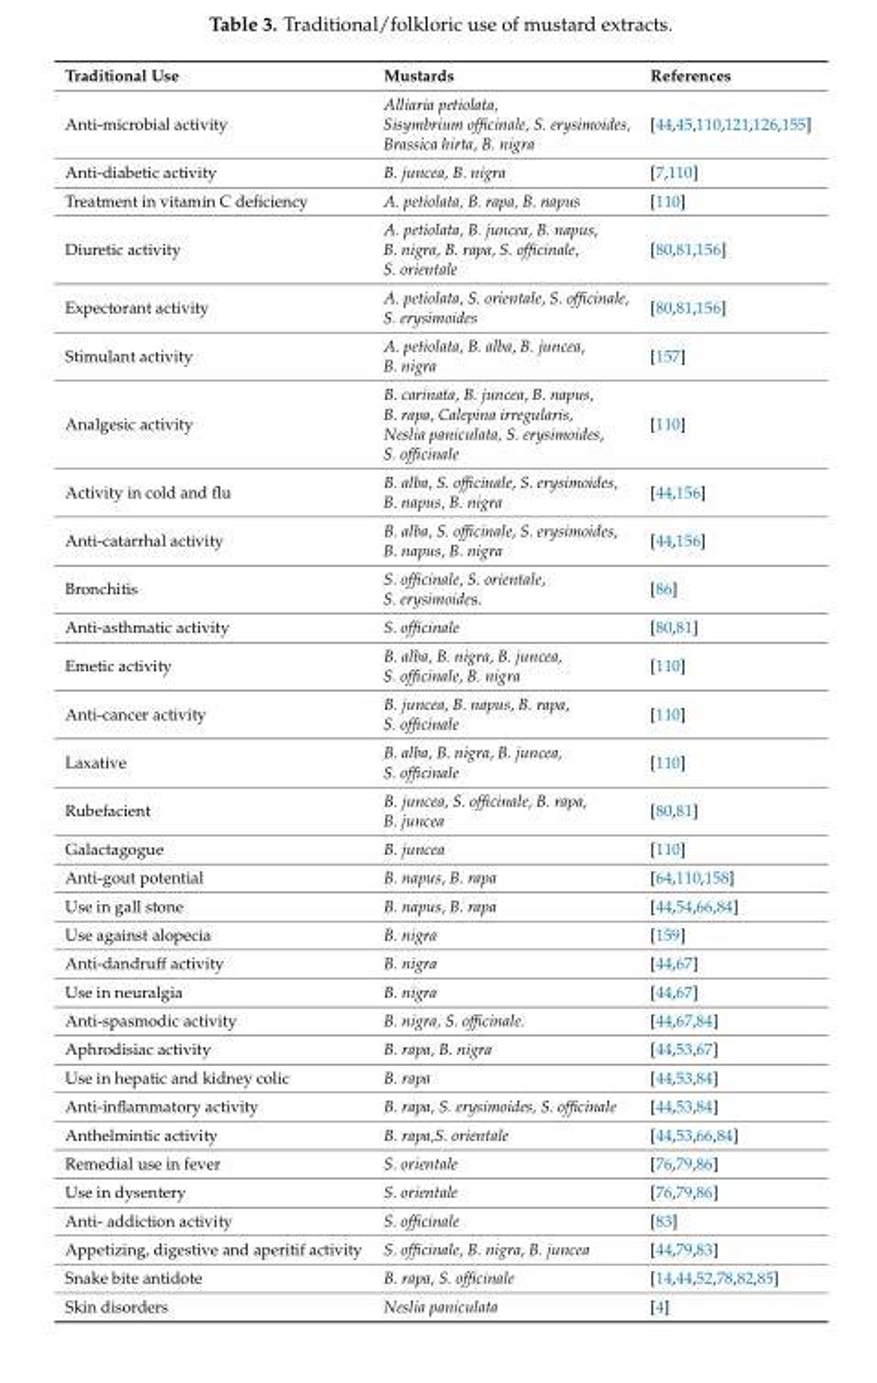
<table><thead><tr><td>Traditional Use</td><td>Mustards</td><td>References</td></tr></thead><tbody><tr><td>Anti-microbial activity</td><td>Alliaria petiolata, Sisymbrium officinale, S. erysimoides, Brassica hirta, B. nigra</td><td>[44,45,110,121,126,155]</td></tr><tr><td>Anti-diabetic activity</td><td>B. juncea, B. nigra</td><td>[7,110]</td></tr><tr><td>Treatment in vitamin C deficiency</td><td>A. petiolata, B. rapa, B. napus</td><td>[110]</td></tr><tr><td>Diuretic activity</td><td>A. petiolata, B. juncea, B. napus, B. nigra, B. rapa, S. officinale, S. orientale</td><td>[80,81,156]</td></tr><tr><td>Expectorant activity</td><td>A. petiolata, S. orientale, S. officinale, S. erysimoides</td><td>[80,81,156]</td></tr><tr><td>Stimulant activity</td><td>A. petiolata, B. alba, B. juncea, B. nigra</td><td>[157]</td></tr><tr><td>Analgesic activity</td><td>B. carinata, B. juncea, B. napus, B. rapa, Calepina irregularis, Neslia paniculata, S. erysimoides, S. officinale</td><td>[110]</td></tr><tr><td>Activity in cold and flu</td><td>B. alba, S. officinale, S. erysimoides, B. napus, B. nigra</td><td>[44,156]</td></tr><tr><td>Anti-catarrhal activity</td><td>B. alba, S. officinale, S. erysimoides, B. napus, B. nigra</td><td>[44,156]</td></tr><tr><td>Bronchitis</td><td>S. officinale, S. orientale, S. erysimoides.</td><td>[86]</td></tr><tr><td>Anti-asthmatic activity</td><td>S. officinale</td><td>[80,81]</td></tr><tr><td>Emetic activity</td><td>B. alba, B. nigra, B. juncea, S. officinale, B. nigra</td><td>[110]</td></tr><tr><td>Anti-cancer activity</td><td>B. juncea, B. napus, B. rapa, S. officinale</td><td>[110]</td></tr><tr><td>Laxative</td><td>B. alba, B. nigra, B. juncea, S. officinale</td><td>[110]</td></tr><tr><td>Rubefacient</td><td>B. juncea, S. officinale, B. rapa, B. juncea</td><td>[80,81]</td></tr><tr><td>Galactagogue</td><td>B. juncea</td><td>[110]</td></tr><tr><td>Anti-gout potential</td><td>B. napus, B. rapa</td><td>[64,110,158]</td></tr><tr><td>Use in gall stone</td><td>B. napus, B. rapa</td><td>[44,54,66,84]</td></tr><tr><td>Use against alopecia</td><td>B. nigra</td><td>[159]</td></tr><tr><td>Anti-dandruff activity</td><td>B. nigra</td><td>[44,67]</td></tr><tr><td>Use in neuralgia</td><td>B. nigra</td><td>[44,67]</td></tr><tr><td>Anti-spasmodic activity</td><td>B. nigra, S. officinale.</td><td>[44,67,84]</td></tr><tr><td>Aphrodisiac activity</td><td>B. rapa, B. nigra</td><td>[44,53,67]</td></tr><tr><td>Use in hepatic and kidney colic</td><td>B. rapa</td><td>[44,53,84]</td></tr><tr><td>Anti-inflammatory activity</td><td>B. rapa, S. erysimoides, S. officinale</td><td>[44,53,84]</td></tr><tr><td>Anthelmintic activity</td><td>B. rapa,S. orientale</td><td>[44,53,66,84]</td></tr><tr><td>Remedial use in fever</td><td>S. orientale</td><td>[76,79,86]</td></tr><tr><td>Use in dysentery</td><td>S. orientale</td><td>[76,79,86]</td></tr><tr><td>Anti- addiction activity</td><td>S. officinale</td><td>[83]</td></tr><tr><td>Appetizing, digestive and aperitif activity</td><td>S. officinale, B. nigra, B. juncea</td><td>[44,79,83]</td></tr><tr><td>Snake bite antidote</td><td>B. rapa, S. officinale</td><td>[14,44,52,78,82,85]</td></tr><tr><td>Skin disorders</td><td>Neslia paniculata</td><td>[4]</td></tr></tbody></table>